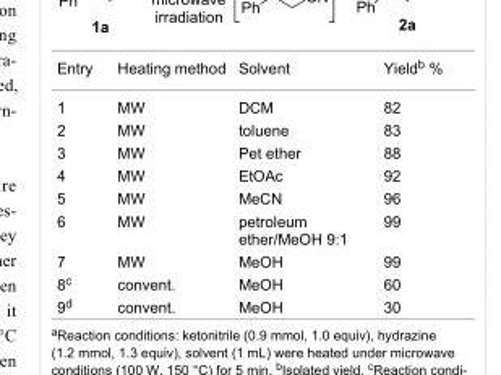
<table><tbody><tr><td>Entry</td><td>Heating method</td><td>Solvent</td><td>Yield<sup>b</sup> %</td></tr><tr><td>1</td><td>MW</td><td>DCM</td><td>82</td></tr><tr><td>2</td><td>MW</td><td>toluene</td><td>83</td></tr><tr><td>3</td><td>MW</td><td>Pet ether</td><td>88</td></tr><tr><td>4</td><td>MW</td><td>EtOAc</td><td>92</td></tr><tr><td>5</td><td>MW</td><td>MeCN</td><td>96</td></tr><tr><td>6</td><td>MW</td><td>petroleum ether/MeOH 9:1</td><td>99</td></tr><tr><td>7</td><td>MW</td><td>MeOH</td><td>99</td></tr><tr><td>8<sup>c</sup></td><td>convent.</td><td>MeOH</td><td>60</td></tr><tr><td>9<sup>d</sup></td><td>convent.</td><td>MeOH</td><td>30</td></tr></tbody></table>